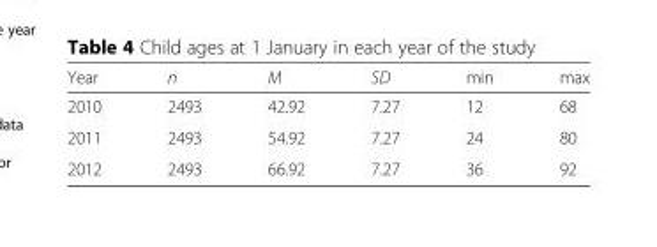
<table><thead><tr><td>Year</td><td>n</td><td>M</td><td>SD</td><td>min</td><td>max</td></tr></thead><tbody><tr><td>2010</td><td>2493</td><td>42.92</td><td>7.27</td><td>12</td><td>68</td></tr><tr><td>2011</td><td>2493</td><td>54.92</td><td>7.27</td><td>24</td><td>80</td></tr><tr><td>2012</td><td>2493</td><td>66.92</td><td>7.27</td><td>36</td><td>92</td></tr></tbody></table>